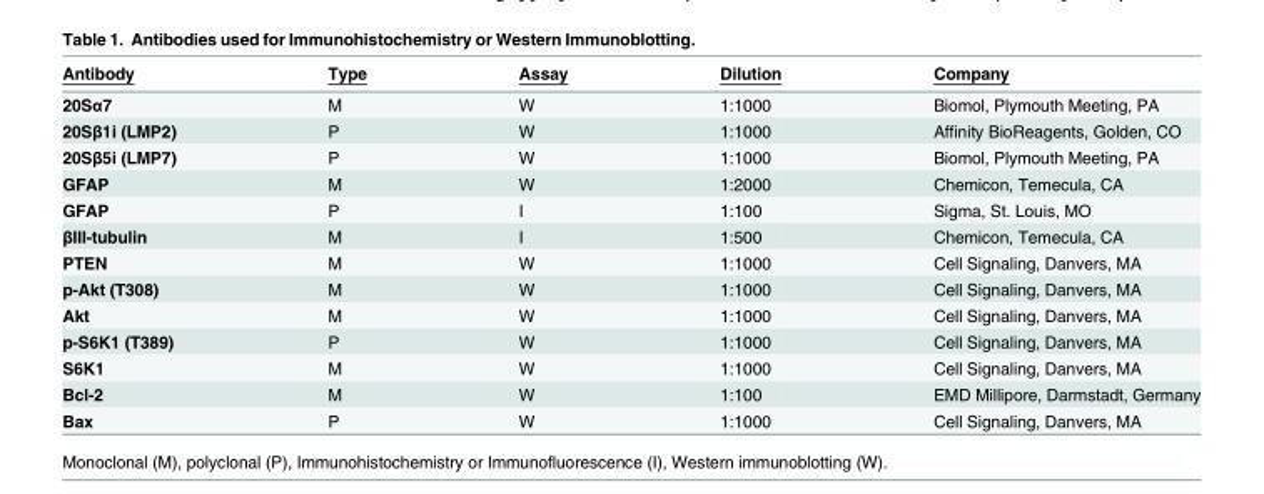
<table><thead><tr><td>Antibody</td><td>Type</td><td>Assay</td><td>Dilution</td><td>Company</td></tr></thead><tbody><tr><td>20Sα7</td><td>M</td><td>W</td><td>1:1000</td><td>Biomol, Plymouth Meeting, PA</td></tr><tr><td>20Sβ1i (LMP2)</td><td>P</td><td>W</td><td>1:1000</td><td>Affinity BioReagents, Golden, CO</td></tr><tr><td>20Sβ5i (LMP7)</td><td>P</td><td>W</td><td>1:1000</td><td>Biomol, Plymouth Meeting, PA</td></tr><tr><td>GFAP</td><td>M</td><td>W</td><td>1:2000</td><td>Chemicon, Temecula, CA</td></tr><tr><td>GFAP</td><td>P</td><td>I</td><td>1:100</td><td>Sigma, St. Louis, MO</td></tr><tr><td>βIII-tubulin</td><td>M</td><td>I</td><td>1:500</td><td>Chemicon, Temecula, CA</td></tr><tr><td>PTEN</td><td>M</td><td>W</td><td>1:1000</td><td>Cell Signaling, Danvers, MA</td></tr><tr><td>p-Akt (T308)</td><td>M</td><td>W</td><td>1:1000</td><td>Cell Signaling, Danvers, MA</td></tr><tr><td>Akt</td><td>M</td><td>W</td><td>1:1000</td><td>Cell Signaling, Danvers, MA</td></tr><tr><td>p-S6K1 (T389)</td><td>P</td><td>W</td><td>1:1000</td><td>Cell Signaling, Danvers, MA</td></tr><tr><td>S6K1</td><td>M</td><td>W</td><td>1:1000</td><td>Cell Signaling, Danvers, MA</td></tr><tr><td>Bcl-2</td><td>M</td><td>W</td><td>1:100</td><td>EMD Millipore, Darmstadt, Germany</td></tr><tr><td>Bax</td><td>P</td><td>W</td><td>1:1000</td><td>Cell Signaling, Danvers, MA</td></tr></tbody></table>